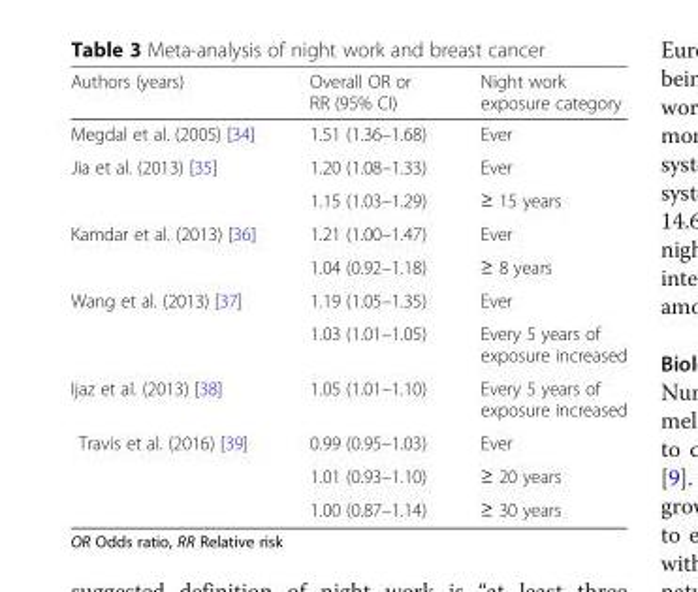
<table><thead><tr><td>Authors (years)</td><td>Overall OR or RR (95% CI)</td><td>Night work exposure category</td></tr></thead><tbody><tr><td>Megdal et al. (2005) [34]</td><td>1.51 (1.36–1.68)</td><td>Ever</td></tr><tr><td rowspan="2">Jia et al. (2013) [35]</td><td>1.20 (1.08–1.33)</td><td>Ever</td></tr><tr><td>1.15 (1.03–1.29)</td><td>≥ 15 years</td></tr><tr><td rowspan="2">Kamdar et al. (2013) [36]</td><td>1.21 (1.00–1.47)</td><td>Ever</td></tr><tr><td>1.04 (0.92–1.18)</td><td>≥ 8 years</td></tr><tr><td rowspan="2">Wang et al. (2013) [37]</td><td>1.19 (1.05–1.35)</td><td>Ever</td></tr><tr><td>1.03 (1.01–1.05)</td><td>Every 5 years of exposure increased</td></tr><tr><td>Ijaz et al. (2013) [38]</td><td>1.05 (1.01–1.10)</td><td>Every 5 years of exposure increased</td></tr><tr><td rowspan="3">Travis et al. (2016) [39]</td><td>0.99 (0.95–1.03)</td><td>Ever</td></tr><tr><td>1.01 (0.93–1.10)</td><td>≥ 20 years</td></tr><tr><td>1.00 (0.87–1.14)</td><td>≥ 30 years</td></tr></tbody></table>